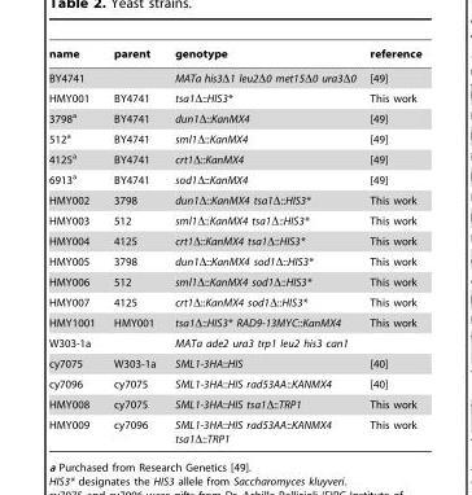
<table><thead><tr><td>name</td><td>parent</td><td>genotype</td><td>reference</td></tr></thead><tbody><tr><td>BY4741</td><td></td><td>MATa his3Δ1 leu2Δ0 met15Δ0 ura3Δ0</td><td>[49]</td></tr><tr><td>HMY001</td><td>BY4741</td><td>tsa1Δ::HIS3*</td><td>This work</td></tr><tr><td>3798<sup>a</sup></td><td>BY4741</td><td>dun1Δ::KanMX4</td><td>[49]</td></tr><tr><td>512<sup>a</sup></td><td>BY4741</td><td>sml1Δ::KanMX4</td><td>[49]</td></tr><tr><td>4125<sup>a</sup></td><td>BY4741</td><td>crt1Δ::KanMX4</td><td>[49]</td></tr><tr><td>6913<sup>a</sup></td><td>BY4741</td><td>sod1Δ::KanMX4</td><td>[49]</td></tr><tr><td>HMY002</td><td>3798</td><td>dun1Δ::KanMX4 tsa1Δ::HIS3*</td><td>This work</td></tr><tr><td>HMY003</td><td>512</td><td>sml1Δ::KanMX4 tsa1Δ::HIS3*</td><td>This work</td></tr><tr><td>HMY004</td><td>4125</td><td>crt1Δ::KanMX4 tsa1Δ::HIS3*</td><td>This work</td></tr><tr><td>HMY005</td><td>3798</td><td>dun1Δ::KanMX4 sod1Δ::HIS3*</td><td>This work</td></tr><tr><td>HMY006</td><td>512</td><td>sml1Δ::KanMX4 sod1Δ::HIS3*</td><td>This work</td></tr><tr><td>HMY007</td><td>4125</td><td>crt1Δ::KanMX4 sod1Δ::HIS3*</td><td>This work</td></tr><tr><td>HMY1001</td><td>HMY001</td><td>tsa1Δ::HIS3* RAD9-13MYC::KanMX4</td><td>This work</td></tr><tr><td>W303-1a</td><td></td><td>MATa ade2 ura3 trp1 leu2 his3 can1</td><td></td></tr><tr><td>cy7075</td><td>W303-1a</td><td>SML1-3HA::HIS</td><td>[40]</td></tr><tr><td>cy7096</td><td>cy7075</td><td>SML1-3HA::HIS rad53AA::KANMX4</td><td>[40]</td></tr><tr><td>HMY008</td><td>cy7075</td><td>SML1-3HA::HIS tsa1Δ::TRP1</td><td>This work</td></tr><tr><td>HMY009</td><td>cy7096</td><td>SML1-3HA::HIS rad53AA::KANMX4 tsa1Δ::TRP1</td><td>This work</td></tr></tbody></table>